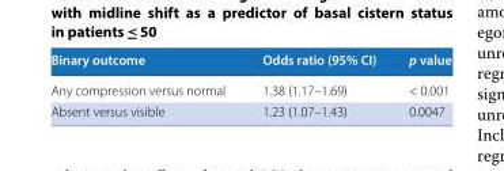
<table><thead><tr><td>Binary outcome</td><td>Odds ratio (95% CI)</td><td>p value</td></tr></thead><tbody><tr><td>Any compression versus normal</td><td>1.38 (1.17–1.69)</td><td>&lt; 0.001</td></tr><tr><td>Absent versus visible</td><td>1.23 (1.07–1.43)</td><td>0.0047</td></tr></tbody></table>